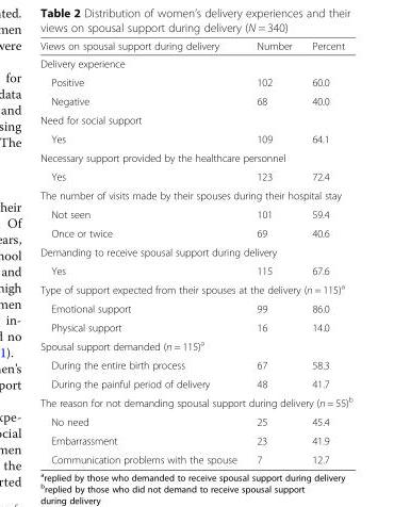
<table><thead><tr><td>Views on spousal support during delivery</td><td>Number</td><td>Percent</td></tr></thead><tbody><tr><td colspan="3">Delivery experience</td></tr><tr><td>Positive</td><td>102</td><td>60.0</td></tr><tr><td>Negative</td><td>68</td><td>40.0</td></tr><tr><td colspan="3">Need for social support</td></tr><tr><td>Yes</td><td>109</td><td>64.1</td></tr><tr><td colspan="3">Necessary support provided by the healthcare personnel</td></tr><tr><td>Yes</td><td>123</td><td>72.4</td></tr><tr><td colspan="3">The number of visits made by their spouses during their hospital stay</td></tr><tr><td>Not seen</td><td>101</td><td>59.4</td></tr><tr><td>Once or twice</td><td>69</td><td>40.6</td></tr><tr><td colspan="3">Demanding to receive spousal support during delivery</td></tr><tr><td>Yes</td><td>115</td><td>67.6</td></tr><tr><td colspan="3">Type of support expected from their spouses at the delivery (n = 115)<sup>a</sup></td></tr><tr><td>Emotional support</td><td>99</td><td>86.0</td></tr><tr><td>Physical support</td><td>16</td><td>14.0</td></tr><tr><td colspan="3">Spousal support demanded (n = 115)<sup>a</sup></td></tr><tr><td>During the entire birth process</td><td>67</td><td>58.3</td></tr><tr><td>During the painful period of delivery</td><td>48</td><td>41.7</td></tr><tr><td colspan="3">The reason for not demanding spousal support during delivery (n = 55)<sup>b</sup></td></tr><tr><td>No need</td><td>25</td><td>45.4</td></tr><tr><td>Embarrassment</td><td>23</td><td>41.9</td></tr><tr><td>Communication problems with the spouse</td><td>7</td><td>12.7</td></tr></tbody></table>